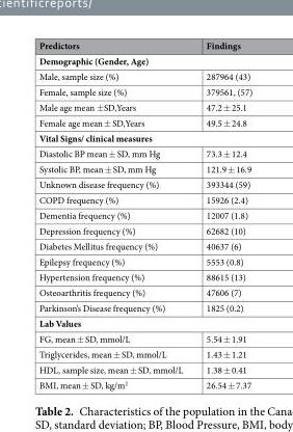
<table><thead><tr><td>Predictors</td><td>Findings</td></tr></thead><tbody><tr><td colspan="2">Demographic (Gender, Age)</td></tr><tr><td>Male, sample size (%)</td><td>287964 (43)</td></tr><tr><td>Female, sample size (%)</td><td>379561, (57)</td></tr><tr><td>Male age mean ±SD,Years</td><td>47.2 ± 25.1</td></tr><tr><td>Female age mean ± SD,Years</td><td>49.5 ± 24.8</td></tr><tr><td colspan="2">Vital Signs/ clinical measures</td></tr><tr><td>Diastolic BP mean ± SD, mm Hg</td><td>73.3 ± 12.4</td></tr><tr><td>Systolic BP, mean ± SD, mm Hg</td><td>121.9 ± 16.9</td></tr><tr><td>Unknown disease frequency (%)</td><td>393344 (59)</td></tr><tr><td>COPD frequency (%)</td><td>15926 (2.4)</td></tr><tr><td>Dementia frequency (%)</td><td>12007 (1.8)</td></tr><tr><td>Depression frequency (%)</td><td>62682 (10)</td></tr><tr><td>Diabetes Mellitus frequency (%)</td><td>40637 (6)</td></tr><tr><td>Epilepsy frequency (%)</td><td>5553 (0.8)</td></tr><tr><td>Hypertension frequency (%)</td><td>88615 (13)</td></tr><tr><td>Osteoarthritis frequency (%)</td><td>47606 (7)</td></tr><tr><td>Parkinson’s Disease frequency (%)</td><td>1825 (0.2)</td></tr><tr><td colspan="2">Lab Values</td></tr><tr><td>FG, mean ± SD, mmol/L</td><td>5.54 ± 1.91</td></tr><tr><td>Triglycerides, mean ± SD, mmol/L</td><td>1.43 ± 1.21</td></tr><tr><td>HDL, sample size, mean ± SD, mmol/L</td><td>1.38 ± 0.41</td></tr><tr><td>BMI, mean ± SD, kg/m<sup>2</sup></td><td>26.54 ± 7.37</td></tr></tbody></table>